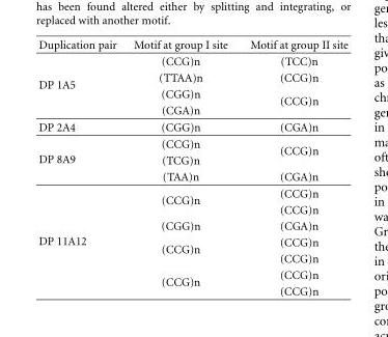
<table><thead><tr><td>Duplication pair</td><td>Motif at group I site</td><td>Motif at group II site</td></tr></thead><tbody><tr><td rowspan="4">DP 1A5</td><td>(CCG)n</td><td>(TCC)n</td></tr><tr><td>(TTAA)n</td><td>(CCG)n</td></tr><tr><td>(CGG)n</td><td rowspan="2">(CCG)n</td></tr><tr><td>(CGA)n</td></tr><tr><td>DP 2A4</td><td>(CGG)n</td><td>(CGA)n</td></tr><tr><td rowspan="3">DP 8A9</td><td>(CCG)n</td><td rowspan="2">(CCG)n</td></tr><tr><td>(TCG)n</td></tr><tr><td>(TAA)n</td><td>(CGA)n</td></tr><tr><td rowspan="7">DP 11A12</td><td rowspan="2">(CCG)n</td><td>(CCG)n</td></tr><tr><td>(CCG)n</td></tr><tr><td>(CGG)n</td><td>(CGA)n</td></tr><tr><td rowspan="2">(CCG)n</td><td>(CCG)n</td></tr><tr><td>(CCG)n</td></tr><tr><td rowspan="2">(CCG)n</td><td>(CCG)n</td></tr><tr><td>(CCG)n</td></tr></tbody></table>